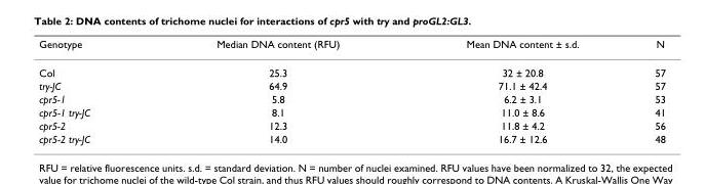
<table><thead><tr><td>Genotype</td><td>Median DNA content (RFU)</td><td>Mean DNA content ± s.d.</td><td>N</td></tr></thead><tbody><tr><td>Col</td><td>25.3</td><td>32 ± 20.8</td><td>57</td></tr><tr><td>try-JC</td><td>64.9</td><td>71.1 ± 42.4</td><td>57</td></tr><tr><td>cpr5-1</td><td>5.8</td><td>6.2 ± 3.1</td><td>53</td></tr><tr><td>cpr5-1 try-JC</td><td>8.1</td><td>11.0 ± 8.6</td><td>41</td></tr><tr><td>cpr5-2</td><td>12.3</td><td>11.8 ± 4.2</td><td>56</td></tr><tr><td>cpr5-2 try-JC</td><td>14.0</td><td>16.7 ± 12.6</td><td>48</td></tr></tbody></table>